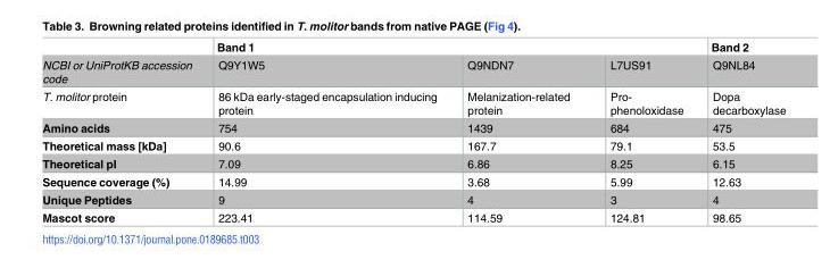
<table><thead><tr><td rowspan="2">NCBI or UniProtKB accession code</td><td colspan="3">Band 1</td><td rowspan="2">Band 2 Q9NL84</td></tr><tr><td>Q9Y1W5</td><td>Q9NDN7</td><td>L7US91</td></tr></thead><tbody><tr><td>T. molitor protein</td><td>86 kDa early-staged encapsulation inducing protein</td><td>Melanization-related protein</td><td>Pro- phenoloxidase</td><td>Dopa decarboxylase</td></tr><tr><td>Amino acids</td><td>754</td><td>1439</td><td>684</td><td>475</td></tr><tr><td>Theoretical mass [kDa]</td><td>90.6</td><td>167.7</td><td>79.1</td><td>53.5</td></tr><tr><td>Theoretical pI</td><td>7.09</td><td>6.86</td><td>8.25</td><td>6.15</td></tr><tr><td>Sequence coverage (%)</td><td>14.99</td><td>3.68</td><td>5.99</td><td>12.63</td></tr><tr><td>Unique Peptides</td><td>9</td><td>4</td><td>3</td><td>4</td></tr><tr><td>Mascot score</td><td>223.41</td><td>114.59</td><td>124.81</td><td>98.65</td></tr></tbody></table>